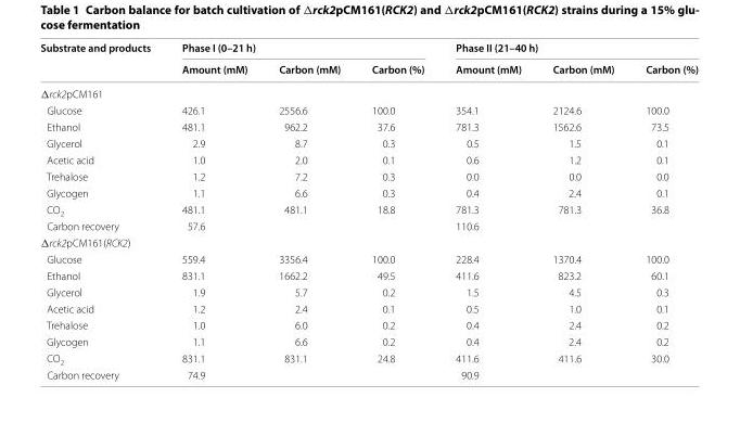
<table><thead><tr><td rowspan="2">Substrate and products</td><td colspan="3">Phase I (0–21 h)</td><td colspan="3">Phase II (21–40 h)</td></tr><tr><td>Amount (mM)</td><td>Carbon (mM)</td><td>Carbon (%)</td><td>Amount (mM)</td><td>Carbon (mM)</td><td>Carbon (%)</td></tr></thead><tbody><tr><td colspan="7">Δrck2pCM161</td></tr><tr><td>Glucose</td><td>426.1</td><td>2556.6</td><td>100.0</td><td>354.1</td><td>2124.6</td><td>100.0</td></tr><tr><td>Ethanol</td><td>481.1</td><td>962.2</td><td>37.6</td><td>781.3</td><td>1562.6</td><td>73.5</td></tr><tr><td>Glycerol</td><td>2.9</td><td>8.7</td><td>0.3</td><td>0.5</td><td>1.5</td><td>0.1</td></tr><tr><td>Acetic acid</td><td>1.0</td><td>2.0</td><td>0.1</td><td>0.6</td><td>1.2</td><td>0.1</td></tr><tr><td>Trehalose</td><td>1.2</td><td>7.2</td><td>0.3</td><td>0.0</td><td>0.0</td><td>0.0</td></tr><tr><td>Glycogen</td><td>1.1</td><td>6.6</td><td>0.3</td><td>0.4</td><td>2.4</td><td>0.1</td></tr><tr><td>CO<sub>2</sub></td><td>481.1</td><td>481.1</td><td>18.8</td><td>781.3</td><td>781.3</td><td>36.8</td></tr><tr><td>Carbon recovery</td><td colspan="3">57.6</td><td colspan="3">110.6</td></tr><tr><td colspan="7">Δrck2pCM161(RCK2)</td></tr><tr><td>Glucose</td><td>559.4</td><td>3356.4</td><td>100.0</td><td>228.4</td><td>1370.4</td><td>100.0</td></tr><tr><td>Ethanol</td><td>831.1</td><td>1662.2</td><td>49.5</td><td>411.6</td><td>823.2</td><td>60.1</td></tr><tr><td>Glycerol</td><td>1.9</td><td>5.7</td><td>0.2</td><td>1.5</td><td>4.5</td><td>0.3</td></tr><tr><td>Acetic acid</td><td>1.2</td><td>2.4</td><td>0.1</td><td>0.5</td><td>1.0</td><td>0.1</td></tr><tr><td>Trehalose</td><td>1.0</td><td>6.0</td><td>0.2</td><td>0.4</td><td>2.4</td><td>0.2</td></tr><tr><td>Glycogen</td><td>1.1</td><td>6.6</td><td>0.2</td><td>0.4</td><td>2.4</td><td>0.2</td></tr><tr><td>CO<sub>2</sub></td><td>831.1</td><td>831.1</td><td>24.8</td><td>411.6</td><td>411.6</td><td>30.0</td></tr><tr><td>Carbon recovery</td><td colspan="3">74.9</td><td colspan="3">90.9</td></tr></tbody></table>